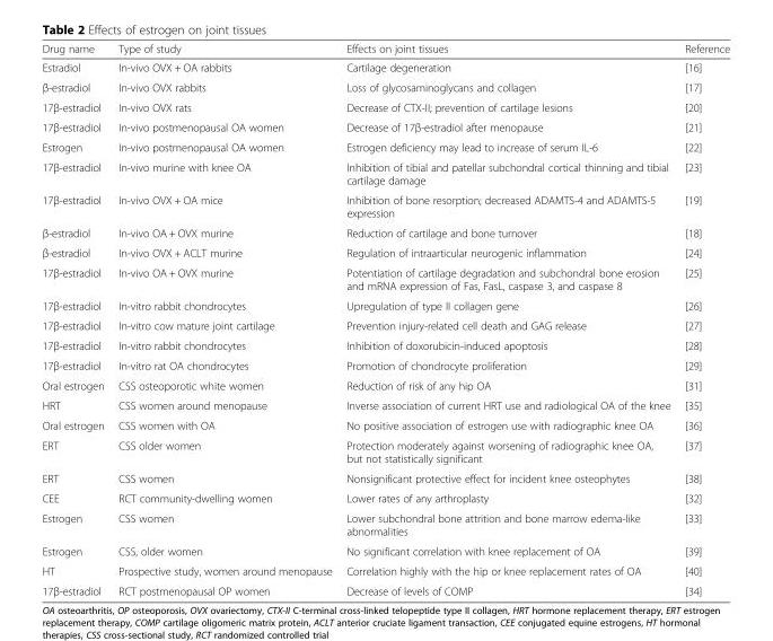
<table><thead><tr><td>Drug name</td><td>Type of study</td><td>Effects on joint tissues</td><td>Reference</td></tr></thead><tbody><tr><td>Estradiol</td><td>In-vivo OVX + OA rabbits</td><td>Cartilage degeneration</td><td>[16]</td></tr><tr><td>β-estradiol</td><td>In-vivo OVX rabbits</td><td>Loss of glycosaminoglycans and collagen</td><td>[17]</td></tr><tr><td>17β-estradiol</td><td>In-vivo OVX rats</td><td>Decrease of CTX-II; prevention of cartilage lesions</td><td>[20]</td></tr><tr><td>17β-estradiol</td><td>In-vivo postmenopausal OA women</td><td>Decrease of 17β-estradiol after menopause</td><td>[21]</td></tr><tr><td>Estrogen</td><td>In-vivo postmenopausal OA women</td><td>Estrogen deficiency may lead to increase of serum IL-6</td><td>[22]</td></tr><tr><td>17β-estradiol</td><td>In-vivo murine with knee OA</td><td>Inhibition of tibial and patellar subchondral cortical thinning and tibial cartilage damage</td><td>[23]</td></tr><tr><td>17β-estradiol</td><td>In-vivo OVX + OA mice</td><td>Inhibition of bone resorption; decreased ADAMTS-4 and ADAMTS-5 expression</td><td>[19]</td></tr><tr><td>β-estradiol</td><td>In-vivo OA + OVX murine</td><td>Reduction of cartilage and bone turnover</td><td>[18]</td></tr><tr><td>β-estradiol</td><td>In-vivo OVX + ACLT murine</td><td>Regulation of intraarticular neurogenic inflammation</td><td>[24]</td></tr><tr><td>17β-estradiol</td><td>In-vivo OA + OVX murine</td><td>Potentiation of cartilage degradation and subchondral bone erosion and mRNA expression of Fas, FasL, caspase 3, and caspase 8</td><td>[25]</td></tr><tr><td>17β-estradiol</td><td>In-vitro rabbit chondrocytes</td><td>Upregulation of type II collagen gene</td><td>[26]</td></tr><tr><td>17β-estradiol</td><td>In-vitro cow mature joint cartilage</td><td>Prevention injury-related cell death and GAG release</td><td>[27]</td></tr><tr><td>17β-estradiol</td><td>In-vitro rabbit chondrocytes</td><td>Inhibition of doxorubicin-induced apoptosis</td><td>[28]</td></tr><tr><td>17β-estradiol</td><td>In-vitro rat OA chondrocytes</td><td>Promotion of chondrocyte proliferation</td><td>[29]</td></tr><tr><td>Oral estrogen</td><td>CSS osteoporotic white women</td><td>Reduction of risk of any hip OA</td><td>[31]</td></tr><tr><td>HRT</td><td>CSS women around menopause</td><td>Inverse association of current HRT use and radiological OA of the knee</td><td>[35]</td></tr><tr><td>Oral estrogen</td><td>CSS women with OA</td><td>No positive association of estrogen use with radiographic knee OA</td><td>[36]</td></tr><tr><td>ERT</td><td>CSS older women</td><td>Protection moderately against worsening of radiographic knee OA, but not statistically significant</td><td>[37]</td></tr><tr><td>ERT</td><td>CSS women</td><td>Nonsignificant protective effect for incident knee osteophytes</td><td>[38]</td></tr><tr><td>CEE</td><td>RCT community-dwelling women</td><td>Lower rates of any arthroplasty</td><td>[32]</td></tr><tr><td>Estrogen</td><td>CSS women</td><td>Lower subchondral bone attrition and bone marrow edema-like abnormalities</td><td>[33]</td></tr><tr><td>Estrogen</td><td>CSS, older women</td><td>No significant correlation with knee replacement of OA</td><td>[39]</td></tr><tr><td>HT</td><td>Prospective study, women around menopause</td><td>Correlation highly with the hip or knee replacement rates of OA</td><td>[40]</td></tr><tr><td>17β-estradiol</td><td>RCT postmenopausal OP women</td><td>Decrease of levels of COMP</td><td>[34]</td></tr></tbody></table>